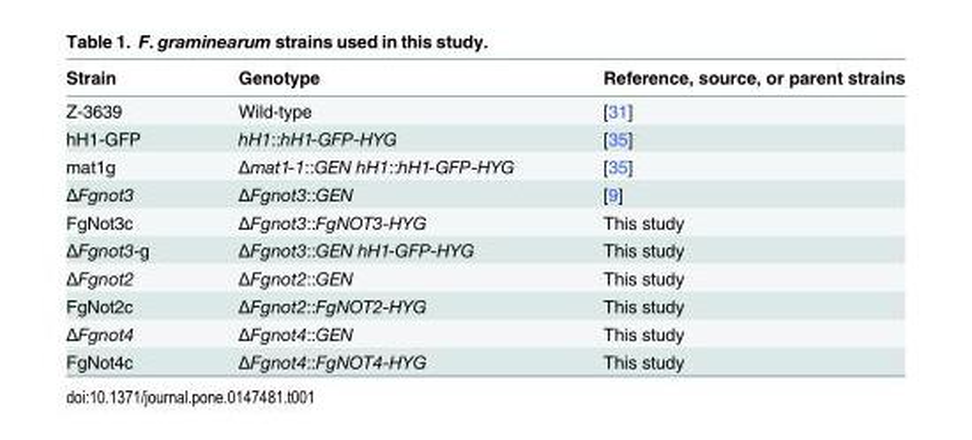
<table><thead><tr><td>Strain</td><td>Genotype</td><td>Reference, source, or parent strains</td></tr></thead><tbody><tr><td>Z-3639</td><td>Wild-type</td><td>[31]</td></tr><tr><td>hH1-GFP</td><td>hH1::hH1-GFP-HYG</td><td>[35]</td></tr><tr><td>mat1g</td><td>Δmat1-1::GEN hH1::hH1-GFP-HYG</td><td>[35]</td></tr><tr><td>ΔFgnot3</td><td>ΔFgnot3::GEN</td><td>[9]</td></tr><tr><td>FgNot3c</td><td>ΔFgnot3::FgNOT3-HYG</td><td>This study</td></tr><tr><td>ΔFgnot3-g</td><td>ΔFgnot3::GEN hH1-GFP-HYG</td><td>This study</td></tr><tr><td>ΔFgnot2</td><td>ΔFgnot2::GEN</td><td>This study</td></tr><tr><td>FgNot2c</td><td>ΔFgnot2::FgNOT2-HYG</td><td>This study</td></tr><tr><td>ΔFgnot4</td><td>ΔFgnot4::GEN</td><td>This study</td></tr><tr><td>FgNot4c</td><td>ΔFgnot4::FgNOT4-HYG</td><td>This study</td></tr></tbody></table>